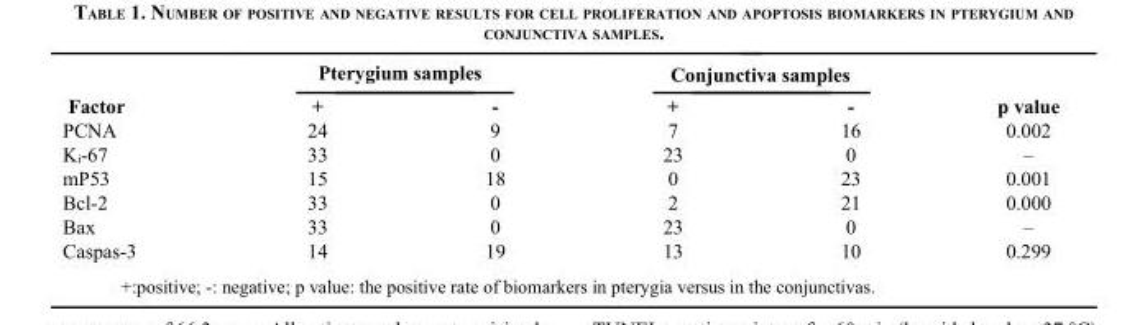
<table><thead><tr><td rowspan="2">Factor</td><td colspan="2">Pterygium samples</td><td colspan="2">Conjunctiva samples</td><td rowspan="2">p value</td></tr><tr><td>+</td><td>-</td><td>+</td><td>-</td></tr></thead><tbody><tr><td>PCNA</td><td>24</td><td>9</td><td>7</td><td>16</td><td>0.002</td></tr><tr><td>K<sub>i</sub>-67</td><td>33</td><td>0</td><td>23</td><td>0</td><td>–</td></tr><tr><td>mP53</td><td>15</td><td>18</td><td>0</td><td>23</td><td>0.001</td></tr><tr><td>Bcl-2</td><td>33</td><td>0</td><td>2</td><td>21</td><td>0.000</td></tr><tr><td>Bax</td><td>33</td><td>0</td><td>23</td><td>0</td><td>–</td></tr><tr><td>Caspas-3</td><td>14</td><td>19</td><td>13</td><td>10</td><td>0.299</td></tr></tbody></table>